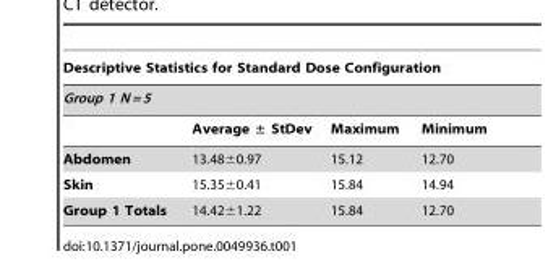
<table><thead><tr><td rowspan="2" colspan="4">Descriptive Statistics for Standard Dose Configuration Group 1 N = 5</td></tr><tr></tr><tr><td></td><td>Average ± StDev</td><td>Maximum</td><td>Minimum</td></tr></thead><tbody><tr><td>Abdomen</td><td>13.48±0.97</td><td>15.12</td><td>12.70</td></tr><tr><td>Skin</td><td>15.35±0.41</td><td>15.84</td><td>14.94</td></tr><tr><td>Group 1 Totals</td><td>14.42±1.22</td><td>15.84</td><td>12.70</td></tr></tbody></table>